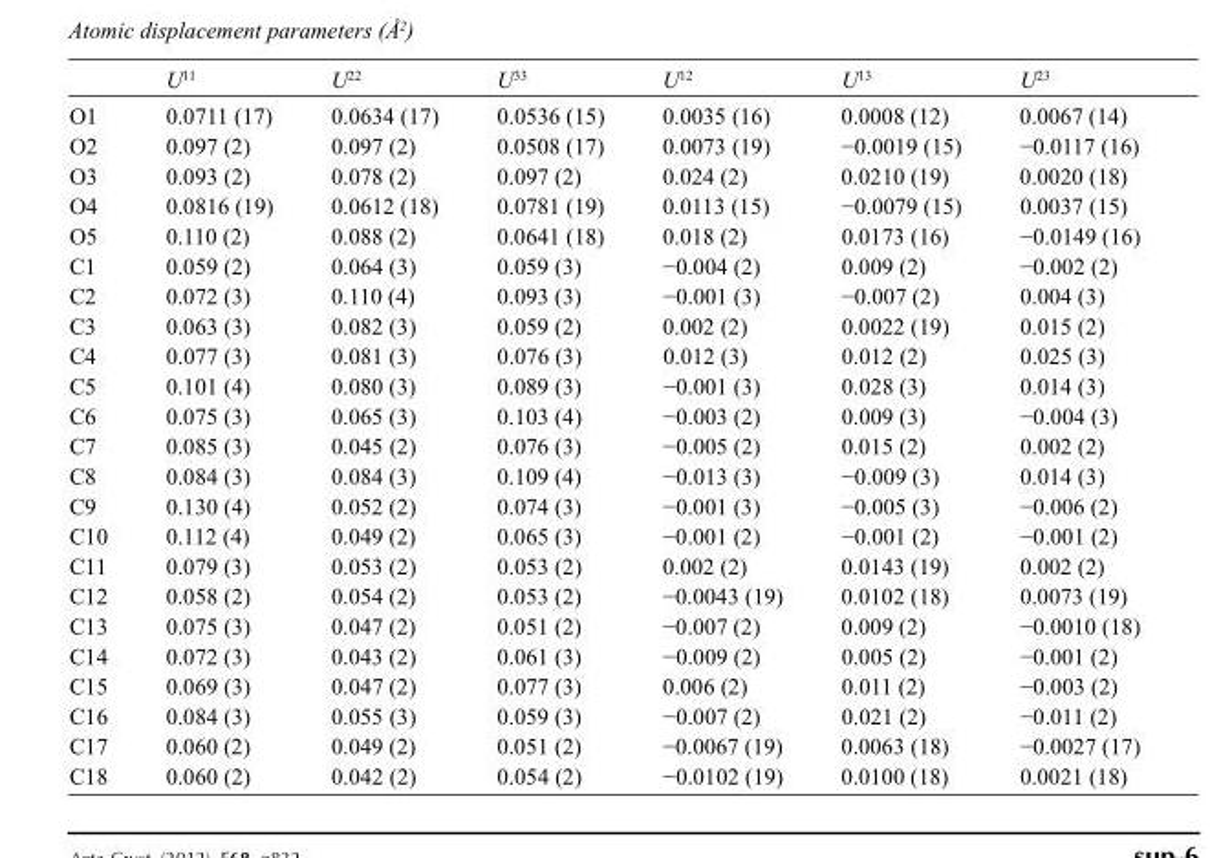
<table><thead><tr><td></td><td>U<sup>11</sup></td><td>U<sup>22</sup></td><td>U<sup>33</sup></td><td>U<sup>12</sup></td><td>U<sup>13</sup></td><td>U<sup>23</sup></td></tr></thead><tbody><tr><td>O1</td><td>0.0711 (17)</td><td>0.0634 (17)</td><td>0.0536 (15)</td><td>0.0035 (16)</td><td>0.0008 (12)</td><td>0.0067 (14)</td></tr><tr><td>O2</td><td>0.097 (2)</td><td>0.097 (2)</td><td>0.0508 (17)</td><td>0.0073 (19)</td><td>−0.0019 (15)</td><td>−0.0117 (16)</td></tr><tr><td>O3</td><td>0.093 (2)</td><td>0.078 (2)</td><td>0.097 (2)</td><td>0.024 (2)</td><td>0.0210 (19)</td><td>0.0020 (18)</td></tr><tr><td>O4</td><td>0.0816 (19)</td><td>0.0612 (18)</td><td>0.0781 (19)</td><td>0.0113 (15)</td><td>−0.0079 (15)</td><td>0.0037 (15)</td></tr><tr><td>O5</td><td>0.110 (2)</td><td>0.088 (2)</td><td>0.0641 (18)</td><td>0.018 (2)</td><td>0.0173 (16)</td><td>−0.0149 (16)</td></tr><tr><td>C1</td><td>0.059 (2)</td><td>0.064 (3)</td><td>0.059 (3)</td><td>−0.004 (2)</td><td>0.009 (2)</td><td>−0.002 (2)</td></tr><tr><td>C2</td><td>0.072 (3)</td><td>0.110 (4)</td><td>0.093 (3)</td><td>−0.001 (3)</td><td>−0.007 (2)</td><td>0.004 (3)</td></tr><tr><td>C3</td><td>0.063 (3)</td><td>0.082 (3)</td><td>0.059 (2)</td><td>0.002 (2)</td><td>0.0022 (19)</td><td>0.015 (2)</td></tr><tr><td>C4</td><td>0.077 (3)</td><td>0.081 (3)</td><td>0.076 (3)</td><td>0.012 (3)</td><td>0.012 (2)</td><td>0.025 (3)</td></tr><tr><td>C5</td><td>0.101 (4)</td><td>0.080 (3)</td><td>0.089 (3)</td><td>−0.001 (3)</td><td>0.028 (3)</td><td>0.014 (3)</td></tr><tr><td>C6</td><td>0.075 (3)</td><td>0.065 (3)</td><td>0.103 (4)</td><td>−0.003 (2)</td><td>0.009 (3)</td><td>−0.004 (3)</td></tr><tr><td>C7</td><td>0.085 (3)</td><td>0.045 (2)</td><td>0.076 (3)</td><td>−0.005 (2)</td><td>0.015 (2)</td><td>0.002 (2)</td></tr><tr><td>C8</td><td>0.084 (3)</td><td>0.084 (3)</td><td>0.109 (4)</td><td>−0.013 (3)</td><td>−0.009 (3)</td><td>0.014 (3)</td></tr><tr><td>C9</td><td>0.130 (4)</td><td>0.052 (2)</td><td>0.074 (3)</td><td>−0.001 (3)</td><td>−0.005 (3)</td><td>−0.006 (2)</td></tr><tr><td>C10</td><td>0.112 (4)</td><td>0.049 (2)</td><td>0.065 (3)</td><td>−0.001 (2)</td><td>−0.001 (2)</td><td>−0.001 (2)</td></tr><tr><td>C11</td><td>0.079 (3)</td><td>0.053 (2)</td><td>0.053 (2)</td><td>0.002 (2)</td><td>0.0143 (19)</td><td>0.002 (2)</td></tr><tr><td>C12</td><td>0.058 (2)</td><td>0.054 (2)</td><td>0.053 (2)</td><td>−0.0043 (19)</td><td>0.0102 (18)</td><td>0.0073 (19)</td></tr><tr><td>C13</td><td>0.075 (3)</td><td>0.047 (2)</td><td>0.051 (2)</td><td>−0.007 (2)</td><td>0.009 (2)</td><td>−0.0010 (18)</td></tr><tr><td>C14</td><td>0.072 (3)</td><td>0.043 (2)</td><td>0.061 (3)</td><td>−0.009 (2)</td><td>0.005 (2)</td><td>−0.001 (2)</td></tr><tr><td>C15</td><td>0.069 (3)</td><td>0.047 (2)</td><td>0.077 (3)</td><td>0.006 (2)</td><td>0.011 (2)</td><td>−0.003 (2)</td></tr><tr><td>C16</td><td>0.084 (3)</td><td>0.055 (3)</td><td>0.059 (3)</td><td>−0.007 (2)</td><td>0.021 (2)</td><td>−0.011 (2)</td></tr><tr><td>C17</td><td>0.060 (2)</td><td>0.049 (2)</td><td>0.051 (2)</td><td>−0.0067 (19)</td><td>0.0063 (18)</td><td>−0.0027 (17)</td></tr><tr><td>C18</td><td>0.060 (2)</td><td>0.042 (2)</td><td>0.054 (2)</td><td>−0.0102 (19)</td><td>0.0100 (18)</td><td>0.0021 (18)</td></tr></tbody></table>